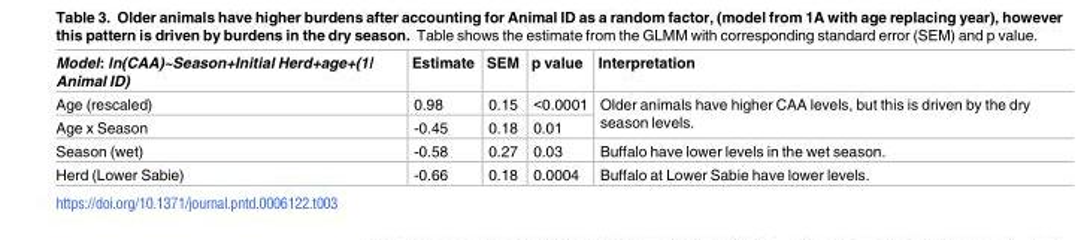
<table><thead><tr><td>Model: ln(CAA)~Season+Initial Herd+age+(1| Animal ID)</td><td>Estimate</td><td>SEM</td><td>p value</td><td>Interpretation</td></tr></thead><tbody><tr><td>Age (rescaled)</td><td>0.98</td><td>0.15</td><td>&lt;0.0001</td><td rowspan="2">Older animals have higher CAA levels, but this is driven by the dry season levels.</td></tr><tr><td>Age x Season</td><td>-0.45</td><td>0.18</td><td>0.01</td></tr><tr><td>Season (wet)</td><td>-0.58</td><td>0.27</td><td>0.03</td><td>Buffalo have lower levels in the wet season.</td></tr><tr><td>Herd (Lower Sabie)</td><td>-0.66</td><td>0.18</td><td>0.0004</td><td>Buffalo at Lower Sabie have lower levels.</td></tr></tbody></table>